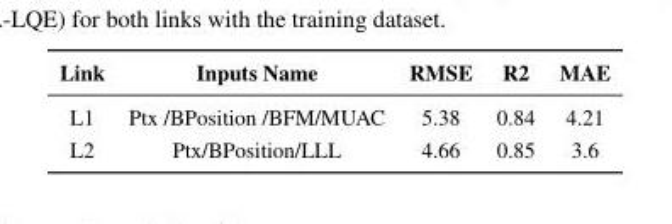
<table><thead><tr><td>Link</td><td>Inputs Name</td><td>RMSE</td><td>R2</td><td>MAE</td></tr></thead><tbody><tr><td>L1</td><td>Ptx /BPosition /BFM/MUAC</td><td>5.38</td><td>0.84</td><td>4.21</td></tr><tr><td>L2</td><td>Ptx/BPosition/LLL</td><td>4.66</td><td>0.85</td><td>3.6</td></tr></tbody></table>